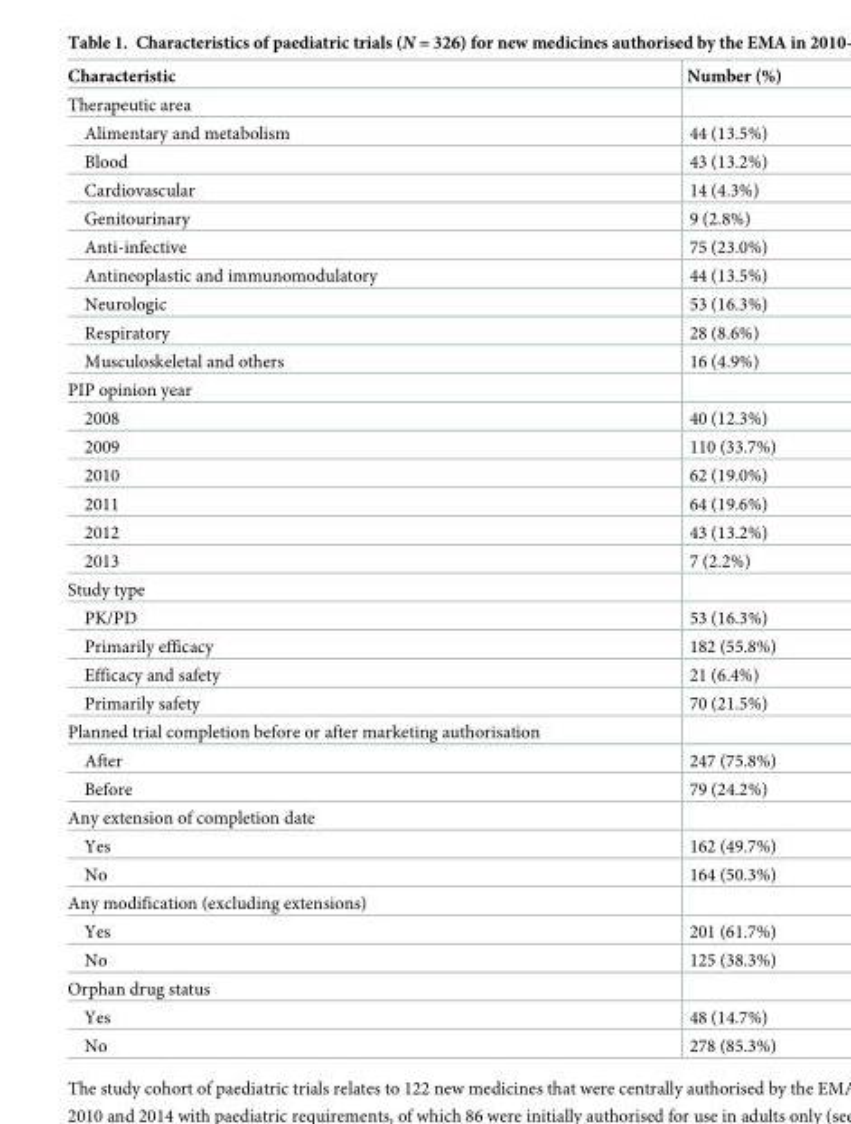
<table><thead><tr><td>Characteristic</td><td>Number (%)</td></tr></thead><tbody><tr><td colspan="2">Therapeutic area</td></tr><tr><td>Alimentary and metabolism</td><td>44 (13.5%)</td></tr><tr><td>Blood</td><td>43 (13.2%)</td></tr><tr><td>Cardiovascular</td><td>14 (4.3%)</td></tr><tr><td>Genitourinary</td><td>9 (2.8%)</td></tr><tr><td>Anti-infective</td><td>75 (23.0%)</td></tr><tr><td>Antineoplastic and immunomodulatory</td><td>44 (13.5%)</td></tr><tr><td>Neurologic</td><td>53 (16.3%)</td></tr><tr><td>Respiratory</td><td>28 (8.6%)</td></tr><tr><td>Musculoskeletal and others</td><td>16 (4.9%)</td></tr><tr><td colspan="2">PIP opinion year</td></tr><tr><td>2008</td><td>40 (12.3%)</td></tr><tr><td>2009</td><td>110 (33.7%)</td></tr><tr><td>2010</td><td>62 (19.0%)</td></tr><tr><td>2011</td><td>64 (19.6%)</td></tr><tr><td>2012</td><td>43 (13.2%)</td></tr><tr><td>2013</td><td>7 (2.2%)</td></tr><tr><td colspan="2">Study type</td></tr><tr><td>PK/PD</td><td>53 (16.3%)</td></tr><tr><td>Primarily efficacy</td><td>182 (55.8%)</td></tr><tr><td>Efficacy and safety</td><td>21 (6.4%)</td></tr><tr><td>Primarily safety</td><td>70 (21.5%)</td></tr><tr><td colspan="2">Planned trial completion before or after marketing authorisation</td></tr><tr><td>After</td><td>247 (75.8%)</td></tr><tr><td>Before</td><td>79 (24.2%)</td></tr><tr><td colspan="2">Any extension of completion date</td></tr><tr><td>Yes</td><td>162 (49.7%)</td></tr><tr><td>No</td><td>164 (50.3%)</td></tr><tr><td colspan="2">Any modification (excluding extensions)</td></tr><tr><td>Yes</td><td>201 (61.7%)</td></tr><tr><td>No</td><td>125 (38.3%)</td></tr><tr><td colspan="2">Orphan drug status</td></tr><tr><td>Yes</td><td>48 (14.7%)</td></tr><tr><td>No</td><td>278 (85.3%)</td></tr></tbody></table>